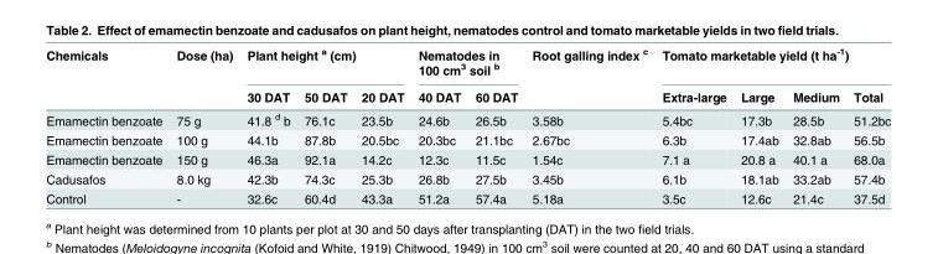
<table><thead><tr><td rowspan="2">Chemicals</td><td rowspan="2">Dose (ha)</td><td colspan="3">Plant height <sup>a</sup> (cm)</td><td colspan="2">Nematodes in 100 cm<sup>3</sup> soil <sup>b</sup></td><td rowspan="2">Root galling index <sup>c</sup></td><td colspan="4">Tomato marketable yield (t ha<sup>-1</sup>)</td></tr><tr><td>30 DAT</td><td>50 DAT</td><td>20 DAT</td><td>40 DAT</td><td>60 DAT</td><td>Extra-large</td><td>Large</td><td>Medium</td><td>Total</td></tr></thead><tbody><tr><td>Emamectin benzoate</td><td>75 g</td><td>41.8 <sup>d</sup> b</td><td>76.1c</td><td>23.5b</td><td>24.6b</td><td>26.5b</td><td>3.58b</td><td>5.4bc</td><td>17.3b</td><td>28.5b</td><td>51.2bc</td></tr><tr><td>Emamectin benzoate</td><td>100 g</td><td>44.1b</td><td>87.8b</td><td>20.5bc</td><td>20.3bc</td><td>21.1bc</td><td>2.67bc</td><td>6.3b</td><td>17.4ab</td><td>32.8ab</td><td>56.5b</td></tr><tr><td>Emamectin benzoate</td><td>150 g</td><td>46.3a</td><td>92.1a</td><td>14.2c</td><td>12.3c</td><td>11.5c</td><td>1.54c</td><td>7.1 a</td><td>20.8 a</td><td>40.1 a</td><td>68.0a</td></tr><tr><td>Cadusafos</td><td>8.0 kg</td><td>42.3b</td><td>74.3c</td><td>25.3b</td><td>26.8b</td><td>27.5b</td><td>3.45b</td><td>6.1b</td><td>18.1ab</td><td>33.2ab</td><td>57.4b</td></tr><tr><td>Control</td><td>-</td><td>32.6c</td><td>60.4d</td><td>43.3a</td><td>51.2a</td><td>57.4a</td><td>5.18a</td><td>3.5c</td><td>12.6c</td><td>21.4c</td><td>37.5d</td></tr></tbody></table>